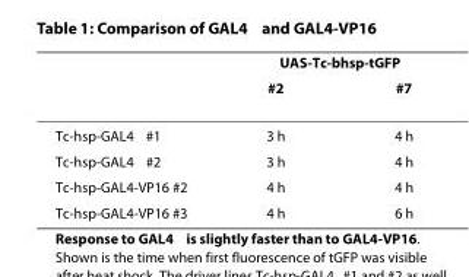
<table><thead><tr><td rowspan="2"></td><td colspan="2">UAS-Tc-bhsp-tGFP</td></tr><tr><td>#2</td><td>#7</td></tr></thead><tbody><tr><td>Tc-hsp-GAL4 #1</td><td>3 h</td><td>4 h</td></tr><tr><td>Tc-hsp-GAL4 #2</td><td>3 h</td><td>4 h</td></tr><tr><td>Tc-hsp-GAL4-VP16 #2</td><td>4 h</td><td>4 h</td></tr><tr><td>Tc-hsp-GAL4-VP16 #3</td><td>4 h</td><td>6 h</td></tr></tbody></table>